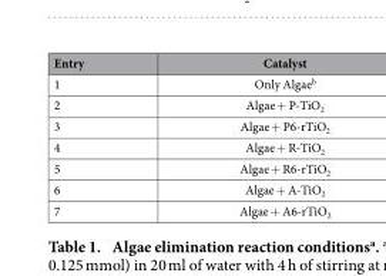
<table><thead><tr><td>Entry</td><td>Catalyst</td></tr></thead><tbody><tr><td>1</td><td>Only Algae<sup>b</sup></td></tr><tr><td>2</td><td>Algae + P-TiO<sub>2</sub></td></tr><tr><td>3</td><td>Algae + P6-rTiO<sub>2</sub></td></tr><tr><td>4</td><td>Algae + R-TiO<sub>2</sub></td></tr><tr><td>5</td><td>Algae + R6-rTiO<sub>2</sub></td></tr><tr><td>6</td><td>Algae + A-TiO<sub>2</sub></td></tr><tr><td>7</td><td>Algae + A6-rTiO<sub>2</sub></td></tr></tbody></table>